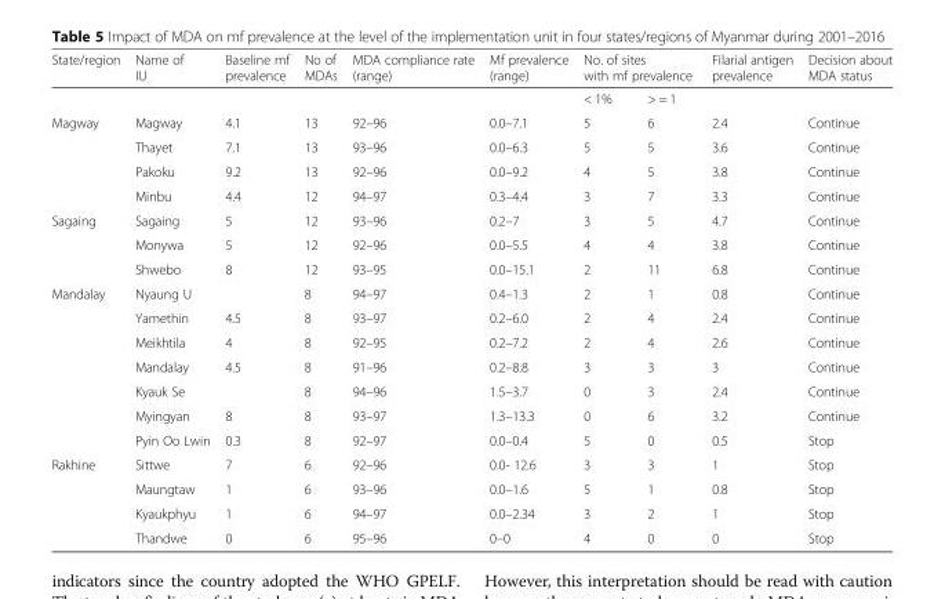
<table><thead><tr><td rowspan="2">State/region</td><td rowspan="2">Name of IU</td><td rowspan="2">Baseline mf prevalence</td><td rowspan="2">No of MDAs</td><td rowspan="2">MDA compliance rate (range)</td><td rowspan="2">Mf prevalence (range)</td><td colspan="2">No. of sites with mf prevalence</td><td rowspan="2">Filarial antigen prevalence</td><td rowspan="2">Decision about MDA status</td></tr><tr><td>&lt; 1%</td><td>&gt; = 1</td></tr></thead><tbody><tr><td rowspan="4">Magway</td><td>Magway</td><td>4.1</td><td>13</td><td>92–96</td><td>0.0–7.1</td><td>5</td><td>6</td><td>2.4</td><td>Continue</td></tr><tr><td>Thayet</td><td>7.1</td><td>13</td><td>93–96</td><td>0.0–6.3</td><td>5</td><td>5</td><td>3.6</td><td>Continue</td></tr><tr><td>Pakoku</td><td>9.2</td><td>13</td><td>92–96</td><td>0.0–9.2</td><td>4</td><td>5</td><td>3.8</td><td>Continue</td></tr><tr><td>Minbu</td><td>4.4</td><td>12</td><td>94–97</td><td>0.3–4.4</td><td>3</td><td>7</td><td>3.3</td><td>Continue</td></tr><tr><td rowspan="3">Sagaing</td><td>Sagaing</td><td>5</td><td>12</td><td>93–96</td><td>0.2–7</td><td>3</td><td>5</td><td>4.7</td><td>Continue</td></tr><tr><td>Monywa</td><td>5</td><td>12</td><td>92–96</td><td>0.0–5.5</td><td>4</td><td>4</td><td>3.8</td><td>Continue</td></tr><tr><td>Shwebo</td><td>8</td><td>12</td><td>93–95</td><td>0.0–15.1</td><td>2</td><td>11</td><td>6.8</td><td>Continue</td></tr><tr><td rowspan="7">Mandalay</td><td>Nyaung U</td><td></td><td>8</td><td>94–97</td><td>0.4–1.3</td><td>2</td><td>1</td><td>0.8</td><td>Continue</td></tr><tr><td>Yamethin</td><td>4.5</td><td>8</td><td>93–97</td><td>0.2–6.0</td><td>2</td><td>4</td><td>2.4</td><td>Continue</td></tr><tr><td>Meikhtila</td><td>4</td><td>8</td><td>92–95</td><td>0.2–7.2</td><td>2</td><td>4</td><td>2.6</td><td>Continue</td></tr><tr><td>Mandalay</td><td>4.5</td><td>8</td><td>91–96</td><td>0.2–8.8</td><td>3</td><td>3</td><td>3</td><td>Continue</td></tr><tr><td>Kyauk Se</td><td></td><td>8</td><td>94–96</td><td>1.5–3.7</td><td>0</td><td>3</td><td>2.4</td><td>Continue</td></tr><tr><td>Myingyan</td><td>8</td><td>8</td><td>93–97</td><td>1.3–13.3</td><td>0</td><td>6</td><td>3.2</td><td>Continue</td></tr><tr><td>Pyin Oo Lwin</td><td>0.3</td><td>8</td><td>92–97</td><td>0.0–0.4</td><td>5</td><td>0</td><td>0.5</td><td>Stop</td></tr><tr><td rowspan="4">Rakhine</td><td>Sittwe</td><td>7</td><td>6</td><td>92–96</td><td>0.0- 12.6</td><td>3</td><td>3</td><td>1</td><td>Stop</td></tr><tr><td>Maungtaw</td><td>1</td><td>6</td><td>93–96</td><td>0.0–1.6</td><td>5</td><td>1</td><td>0.8</td><td>Stop</td></tr><tr><td>Kyaukphyu</td><td>1</td><td>6</td><td>94–97</td><td>0.0–2.34</td><td>3</td><td>2</td><td>1</td><td>Stop</td></tr><tr><td>Thandwe</td><td>0</td><td>6</td><td>95–96</td><td>0–0</td><td>4</td><td>0</td><td>0</td><td>Stop</td></tr></tbody></table>